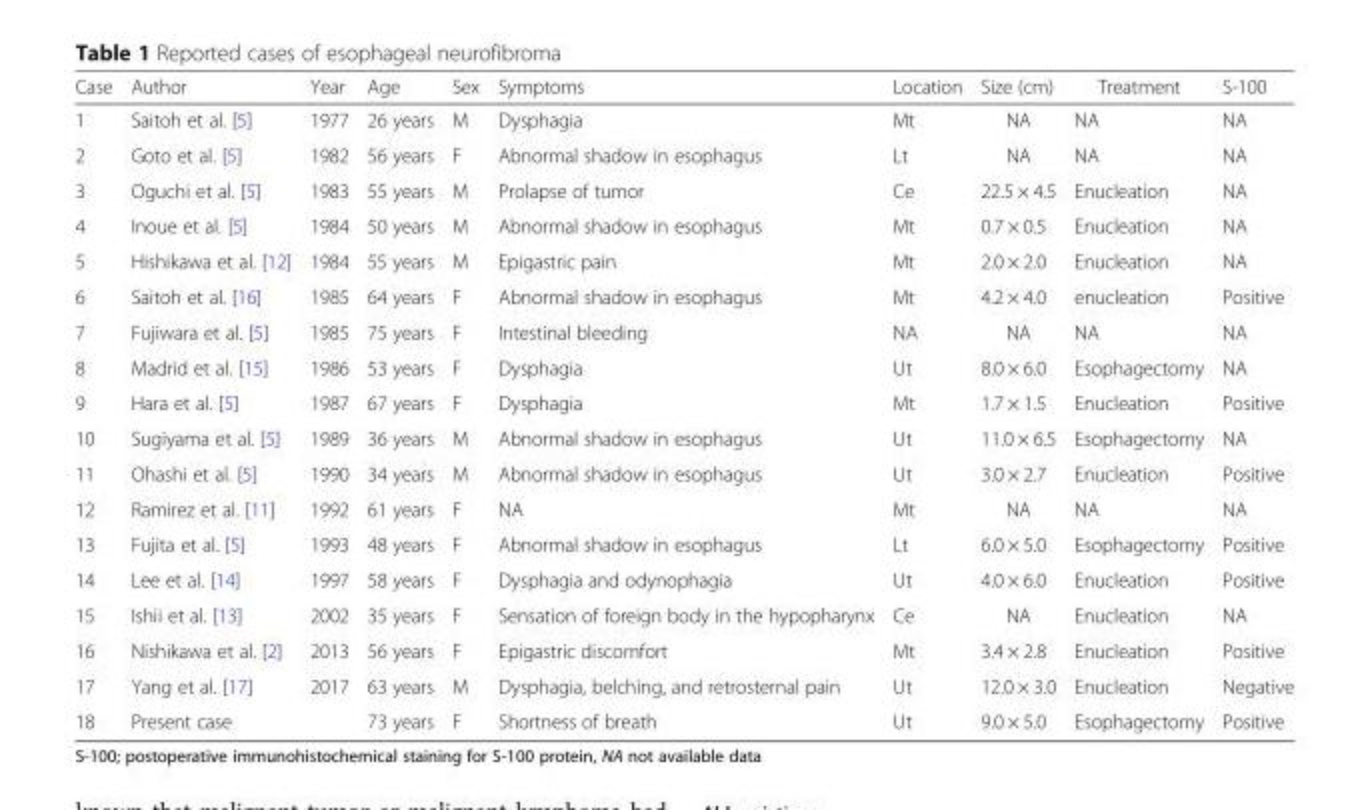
<table><thead><tr><td>Case</td><td>Author</td><td>Year</td><td>Age</td><td>Sex</td><td>Symptoms</td><td>Location</td><td>Size (cm)</td><td>Treatment</td><td>S-100</td></tr></thead><tbody><tr><td>1</td><td>Saitoh et al. [5]</td><td>1977</td><td>26 years</td><td>M</td><td>Dysphagia</td><td>Mt</td><td>NA</td><td>NA</td><td>NA</td></tr><tr><td>2</td><td>Goto et al. [5]</td><td>1982</td><td>56 years</td><td>F</td><td>Abnormal shadow in esophagus</td><td>Lt</td><td>NA</td><td>NA</td><td>NA</td></tr><tr><td>3</td><td>Oguchi et al. [5]</td><td>1983</td><td>55 years</td><td>M</td><td>Prolapse of tumor</td><td>Ce</td><td>22.5 × 4.5</td><td>Enucleation</td><td>NA</td></tr><tr><td>4</td><td>Inoue et al. [5]</td><td>1984</td><td>50 years</td><td>M</td><td>Abnormal shadow in esophagus</td><td>Mt</td><td>0.7 × 0.5</td><td>Enucleation</td><td>NA</td></tr><tr><td>5</td><td>Hishikawa et al. [12]</td><td>1984</td><td>55 years</td><td>M</td><td>Epigastric pain</td><td>Mt</td><td>2.0 × 2.0</td><td>Enucleation</td><td>NA</td></tr><tr><td>6</td><td>Saitoh et al. [16]</td><td>1985</td><td>64 years</td><td>F</td><td>Abnormal shadow in esophagus</td><td>Mt</td><td>4.2 × 4.0</td><td>enucleation</td><td>Positive</td></tr><tr><td>7</td><td>Fujiwara et al. [5]</td><td>1985</td><td>75 years</td><td>F</td><td>Intestinal bleeding</td><td>NA</td><td>NA</td><td>NA</td><td>NA</td></tr><tr><td>8</td><td>Madrid et al. [15]</td><td>1986</td><td>53 years</td><td>F</td><td>Dysphagia</td><td>Ut</td><td>8.0 × 6.0</td><td>Esophagectomy</td><td>NA</td></tr><tr><td>9</td><td>Hara et al. [5]</td><td>1987</td><td>67 years</td><td>F</td><td>Dysphagia</td><td>Mt</td><td>1.7 × 1.5</td><td>Enucleation</td><td>Positive</td></tr><tr><td>10</td><td>Sugiyama et al. [5]</td><td>1989</td><td>36 years</td><td>M</td><td>Abnormal shadow in esophagus</td><td>Ut</td><td>11.0 × 6.5</td><td>Esophagectomy</td><td>NA</td></tr><tr><td>11</td><td>Ohashi et al. [5]</td><td>1990</td><td>34 years</td><td>M</td><td>Abnormal shadow in esophagus</td><td>Ut</td><td>3.0 × 2.7</td><td>Enucleation</td><td>Positive</td></tr><tr><td>12</td><td>Ramirez et al. [11]</td><td>1992</td><td>61 years</td><td>F</td><td>NA</td><td>Mt</td><td>NA</td><td>NA</td><td>NA</td></tr><tr><td>13</td><td>Fujita et al. [5]</td><td>1993</td><td>48 years</td><td>F</td><td>Abnormal shadow in esophagus</td><td>Lt</td><td>6.0 × 5.0</td><td>Esophagectomy</td><td>Positive</td></tr><tr><td>14</td><td>Lee et al. [14]</td><td>1997</td><td>58 years</td><td>F</td><td>Dysphagia and odynophagia</td><td>Ut</td><td>4.0 × 6.0</td><td>Enucleation</td><td>Positive</td></tr><tr><td>15</td><td>Ishii et al. [13]</td><td>2002</td><td>35 years</td><td>F</td><td>Sensation of foreign body in the hypopharynx</td><td>Ce</td><td>NA</td><td>Enucleation</td><td>NA</td></tr><tr><td>16</td><td>Nishikawa et al. [2]</td><td>2013</td><td>56 years</td><td>F</td><td>Epigastric discomfort</td><td>Mt</td><td>3.4 × 2.8</td><td>Enucleation</td><td>Positive</td></tr><tr><td>17</td><td>Yang et al. [17]</td><td>2017</td><td>63 years</td><td>M</td><td>Dysphagia, belching, and retrosternal pain</td><td>Ut</td><td>12.0 × 3.0</td><td>Enucleation</td><td>Negative</td></tr><tr><td>18</td><td>Present case</td><td></td><td>73 years</td><td>F</td><td>Shortness of breath</td><td>Ut</td><td>9.0 × 5.0</td><td>Esophagectomy</td><td>Positive</td></tr></tbody></table>